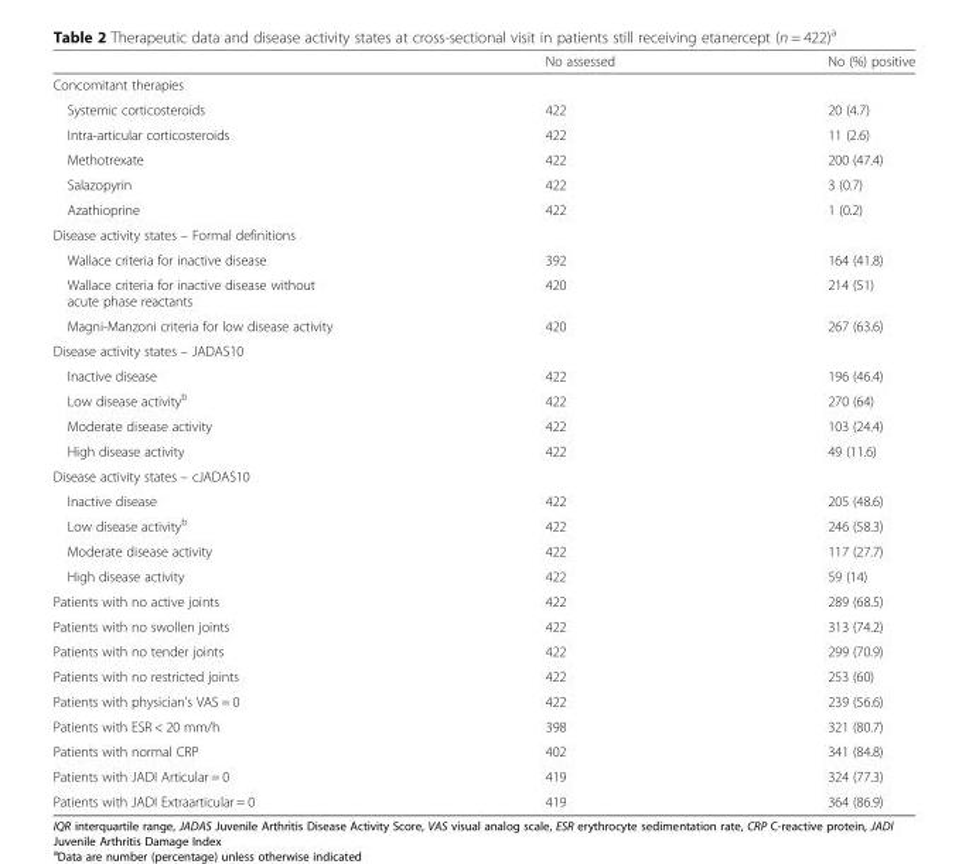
<table><thead><tr><td></td><td>No assessed</td><td>No (%) positive</td></tr></thead><tbody><tr><td colspan="3">Concomitant therapies</td></tr><tr><td>Systemic corticosteroids</td><td>422</td><td>20 (4.7)</td></tr><tr><td>Intra-articular corticosteroids</td><td>422</td><td>11 (2.6)</td></tr><tr><td>Methotrexate</td><td>422</td><td>200 (47.4)</td></tr><tr><td>Salazopyrin</td><td>422</td><td>3 (0.7)</td></tr><tr><td>Azathioprine</td><td>422</td><td>1 (0.2)</td></tr><tr><td colspan="3">Disease activity states – Formal definitions</td></tr><tr><td>Wallace criteria for inactive disease</td><td>392</td><td>164 (41.8)</td></tr><tr><td>Wallace criteria for inactive disease without acute phase reactants</td><td>420</td><td>214 (51)</td></tr><tr><td>Magni-Manzoni criteria for low disease activity</td><td>420</td><td>267 (63.6)</td></tr><tr><td colspan="3">Disease activity states – JADAS10</td></tr><tr><td>Inactive disease</td><td>422</td><td>196 (46.4)</td></tr><tr><td>Low disease activity<sup>b</sup></td><td>422</td><td>270 (64)</td></tr><tr><td>Moderate disease activity</td><td>422</td><td>103 (24.4)</td></tr><tr><td>High disease activity</td><td>422</td><td>49 (11.6)</td></tr><tr><td colspan="3">Disease activity states – cJADAS10</td></tr><tr><td>Inactive disease</td><td>422</td><td>205 (48.6)</td></tr><tr><td>Low disease activity<sup>b</sup></td><td>422</td><td>246 (58.3)</td></tr><tr><td>Moderate disease activity</td><td>422</td><td>117 (27.7)</td></tr><tr><td>High disease activity</td><td>422</td><td>59 (14)</td></tr><tr><td>Patients with no active joints</td><td>422</td><td>289 (68.5)</td></tr><tr><td>Patients with no swollen joints</td><td>422</td><td>313 (74.2)</td></tr><tr><td>Patients with no tender joints</td><td>422</td><td>299 (70.9)</td></tr><tr><td>Patients with no restricted joints</td><td>422</td><td>253 (60)</td></tr><tr><td>Patients with physician’s VAS = 0</td><td>422</td><td>239 (56.6)</td></tr><tr><td>Patients with ESR &lt; 20 mm/h</td><td>398</td><td>321 (80.7)</td></tr><tr><td>Patients with normal CRP</td><td>402</td><td>341 (84.8)</td></tr><tr><td>Patients with JADI Articular = 0</td><td>419</td><td>324 (77.3)</td></tr><tr><td>Patients with JADI Extraarticular = 0</td><td>419</td><td>364 (86.9)</td></tr></tbody></table>